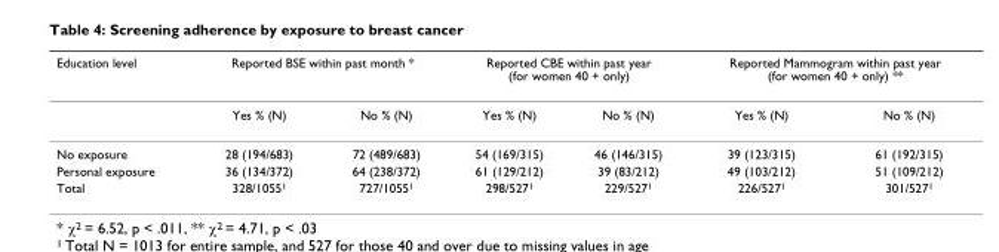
<table><thead><tr><td rowspan="2">Education level</td><td colspan="2">Reported BSE within past month *</td><td colspan="2">Reported CBE within past year (for women 40 + only)</td><td colspan="2">Reported Mammogram within past year (for women 40 + only) **</td></tr><tr><td>Yes % (N)</td><td>No % (N)</td><td>Yes % (N)</td><td>No % (N)</td><td>Yes % (N)</td><td>No % (N)</td></tr></thead><tbody><tr><td>No exposure</td><td>28 (194/683)</td><td>72 (489/683)</td><td>54 (169/315)</td><td>46 (146/315)</td><td>39 (123/315)</td><td>61 (192/315)</td></tr><tr><td>Personal exposure</td><td>36 (134/372)</td><td>64 (238/372)</td><td>61 (129/212)</td><td>39 (83/212)</td><td>49 (103/212)</td><td>51 (109/212)</td></tr><tr><td>Total</td><td>328/1055<sup>1</sup></td><td>727/1055<sup>1</sup></td><td>298/527<sup>1</sup></td><td>229/527<sup>1</sup></td><td>226/527<sup>1</sup></td><td>301/527<sup>1</sup></td></tr></tbody></table>